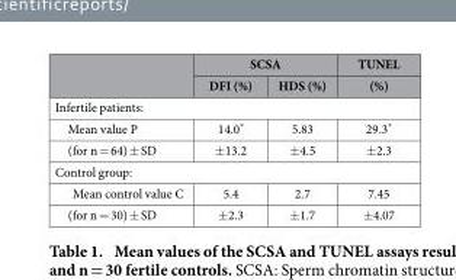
<table><thead><tr><td rowspan="2"></td><td colspan="2">SCSA</td><td rowspan="2">TUNEL (%)</td></tr><tr><td>DFI (%)</td><td>HDS (%)</td></tr></thead><tbody><tr><td colspan="4">Infertile patients:</td></tr><tr><td>Mean value P</td><td>14.0*</td><td>5.83</td><td>29.3*</td></tr><tr><td>(for n = 64) ± SD</td><td>± 13.2</td><td>± 4.5</td><td>± 2.3</td></tr><tr><td colspan="4">Control group:</td></tr><tr><td>Mean control value C</td><td>5.4</td><td>2.7</td><td>7.45</td></tr><tr><td>(for n = 30) ± SD</td><td>± 2.3</td><td>± 1.7</td><td>± 4.07</td></tr></tbody></table>